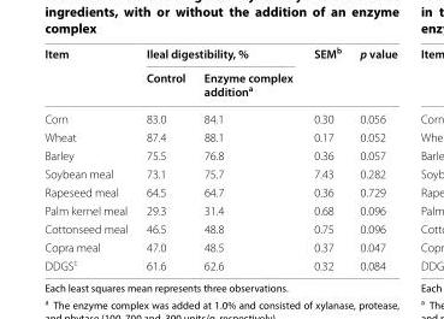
<table><thead><tr><td rowspan="2">Item</td><td colspan="2">Ileal digestibility, %</td><td rowspan="2">SEM<sup>b</sup></td><td rowspan="2">p value</td></tr><tr><td>Control</td><td>Enzyme complex addition<sup>a</sup></td></tr></thead><tbody><tr><td>Corn</td><td>83.0</td><td>84.1</td><td>0.30</td><td>0.056</td></tr><tr><td>Wheat</td><td>87.4</td><td>88.1</td><td>0.17</td><td>0.052</td></tr><tr><td>Barley</td><td>75.5</td><td>76.8</td><td>0.36</td><td>0.057</td></tr><tr><td>Soybean meal</td><td>73.1</td><td>75.7</td><td>7.43</td><td>0.282</td></tr><tr><td>Rapeseed meal</td><td>64.5</td><td>64.7</td><td>0.36</td><td>0.729</td></tr><tr><td>Palm kernel meal</td><td>29.3</td><td>31.4</td><td>0.68</td><td>0.096</td></tr><tr><td>Cottonseed meal</td><td>46.5</td><td>48.8</td><td>0.75</td><td>0.096</td></tr><tr><td>Copra meal</td><td>47.0</td><td>48.5</td><td>0.37</td><td>0.047</td></tr><tr><td>DDGS<sup>c</sup></td><td>61.6</td><td>62.6</td><td>0.32</td><td>0.084</td></tr></tbody></table>